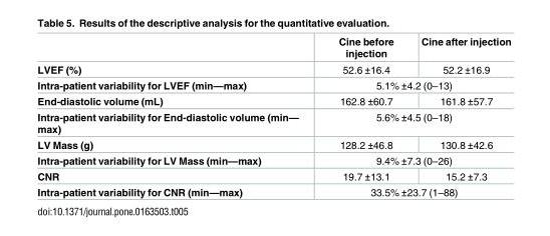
<table><thead><tr><td></td><td>Cine before injection</td><td>Cine after injection</td></tr></thead><tbody><tr><td>LVEF (%)</td><td>52.6 ±16.4</td><td>52.2 ±16.9</td></tr><tr><td>Intra-patient variability for LVEF (min—max)</td><td colspan="2">5.1% ±4.2 (0–13)</td></tr><tr><td>End-diastolic volume (mL)</td><td>162.8 ±60.7</td><td>161.8 ±57.7</td></tr><tr><td>Intra-patient variability for End-diastolic volume (min— max)</td><td colspan="2">5.6% ±4.5 (0–18)</td></tr><tr><td>LV Mass (g)</td><td>128.2 ±46.8</td><td>130.8 ±42.6</td></tr><tr><td>Intra-patient variability for LV Mass (min—max)</td><td colspan="2">9.4% ±7.3 (0–26)</td></tr><tr><td>CNR</td><td>19.7 ±13.1</td><td>15.2 ±7.3</td></tr><tr><td>Intra-patient variability for CNR (min—max)</td><td colspan="2">33.5% ±23.7 (1–88)</td></tr></tbody></table>